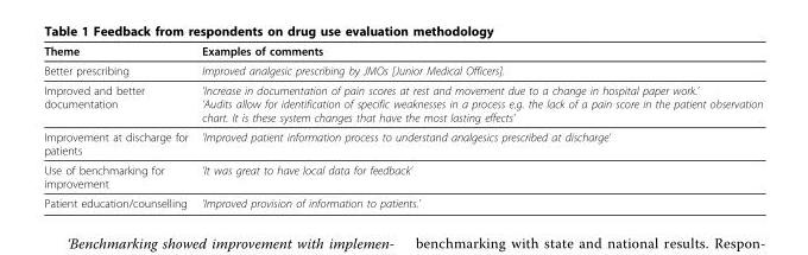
<table><thead><tr><td>Theme</td><td>Examples of comments</td></tr></thead><tbody><tr><td>Better prescribing</td><td>Improved analgesic prescribing by JMOs [Junior Medical Officers].</td></tr><tr><td>Improved and better documentation</td><td>’Increase in documentation of pain scores at rest and movement due to a change in hospital paper work.’ ’Audits allow for identification of specific weaknesses in a process e.g. the lack of a pain score in the patient observation chart. It is these system changes that have the most lasting effects’</td></tr><tr><td>Improvement at discharge for patients</td><td>’Improved patient information process to understand analgesics prescribed at discharge’</td></tr><tr><td>Use of benchmarking for improvement</td><td>’It was great to have local data for feedback’</td></tr><tr><td>Patient education/counselling</td><td>’Improved provision of information to patients.’</td></tr></tbody></table>